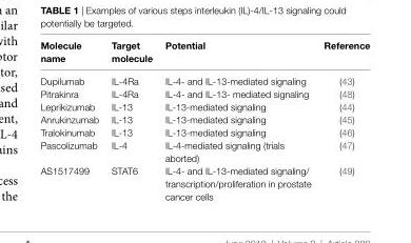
<table><thead><tr><td>Molecule name</td><td>Target molecule</td><td>Potential</td><td>Reference</td></tr></thead><tbody><tr><td>Dupilumab</td><td>IL-4Ra</td><td>IL-4- and IL-13-mediated signaling</td><td>(43)</td></tr><tr><td>Pitrakinra</td><td>IL-4Ra</td><td>IL-4- and IL-13- mediated signaling</td><td>(48)</td></tr><tr><td>Leprikizumab</td><td>IL-13</td><td>IL-13-mediated signaling</td><td>(44)</td></tr><tr><td>Anrukinzumab</td><td>IL-13</td><td>IL-13-mediated signaling</td><td>(45)</td></tr><tr><td>Tralokinumab</td><td>IL-13</td><td>IL-13-mediated signaling</td><td>(46)</td></tr><tr><td>Pascolizumab</td><td>IL-4</td><td>IL-4-mediated signaling (trials aborted)</td><td>(47)</td></tr><tr><td>AS1517499</td><td>STAT6</td><td>IL-4- and IL-13-mediated signaling/ transcription/proliferation in prostate cancer cells</td><td>(49)</td></tr></tbody></table>